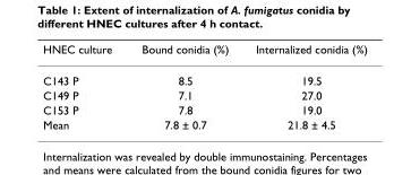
<table><thead><tr><td>HNEC culture</td><td>Bound conidia (%)</td><td>Internalized conidia (%)</td></tr></thead><tbody><tr><td>C143 P</td><td>8.5</td><td>19.5</td></tr><tr><td>C149 P</td><td>7.1</td><td>27.0</td></tr><tr><td>C153 P</td><td>7.8</td><td>19.0</td></tr><tr><td>Mean</td><td>7.8 ± 0.7</td><td>21.8 ± 4.5</td></tr></tbody></table>